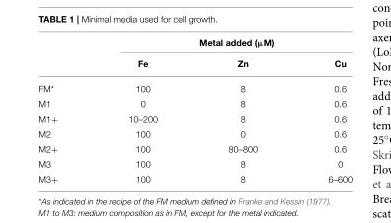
<table><thead><tr><td rowspan="2"></td><td colspan="3">Metal added (µM)</td></tr><tr><td>Fe</td><td>Zn</td><td>Cu</td></tr></thead><tbody><tr><td>FM*</td><td>100</td><td>8</td><td>0.6</td></tr><tr><td>M1</td><td>0</td><td>8</td><td>0.6</td></tr><tr><td>M1+</td><td>10–200</td><td>8</td><td>0.6</td></tr><tr><td>M2</td><td>100</td><td>0</td><td>0.6</td></tr><tr><td>M2+</td><td>100</td><td>80–800</td><td>0.6</td></tr><tr><td>M3</td><td>100</td><td>8</td><td>0</td></tr><tr><td>M3+</td><td>100</td><td>8</td><td>6–600</td></tr></tbody></table>